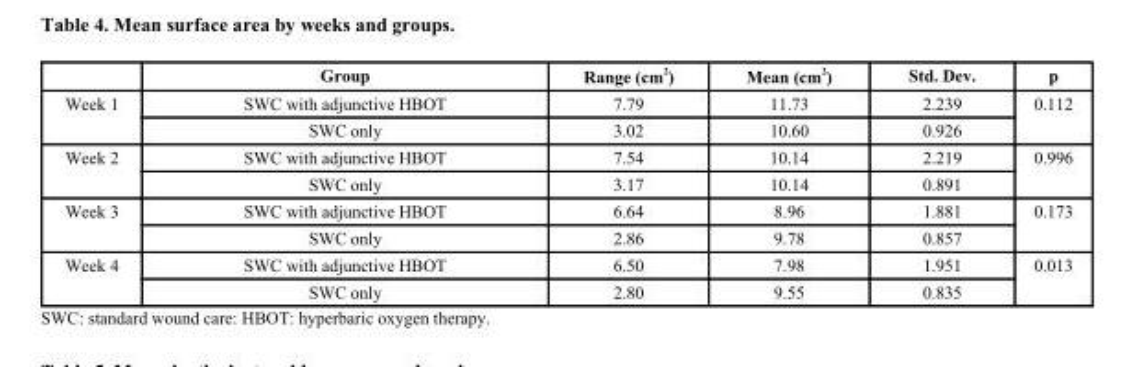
<table><thead><tr><td></td><td>Group</td><td>Range (cm <sup>2</sup>)</td><td>Mean (cm <sup>2</sup>)</td><td>Std. Dev.</td><td>p</td></tr></thead><tbody><tr><td rowspan="2">Week 1</td><td>SWC with adjunctive HBOT</td><td>7.79</td><td>11.73</td><td>2.239</td><td rowspan="2">0.112</td></tr><tr><td>SWC only</td><td>3.02</td><td>10.60</td><td>0.926</td></tr><tr><td rowspan="2">Week 2</td><td>SWC with adjunctive HBOT</td><td>7.54</td><td>10.14</td><td>2.219</td><td rowspan="2">0.996</td></tr><tr><td>SWC only</td><td>3.17</td><td>10.14</td><td>0.891</td></tr><tr><td rowspan="2">Week 3</td><td>SWC with adjunctive HBOT</td><td>6.64</td><td>8.96</td><td>1.881</td><td rowspan="2">0.173</td></tr><tr><td>SWC only</td><td>2.86</td><td>9.78</td><td>0.857</td></tr><tr><td rowspan="2">Week 4</td><td>SWC with adjunctive HBOT</td><td>6.50</td><td>7.98</td><td>1.951</td><td rowspan="2">0.013</td></tr><tr><td>SWC only</td><td>2.80</td><td>9.55</td><td>0.835</td></tr></tbody></table>